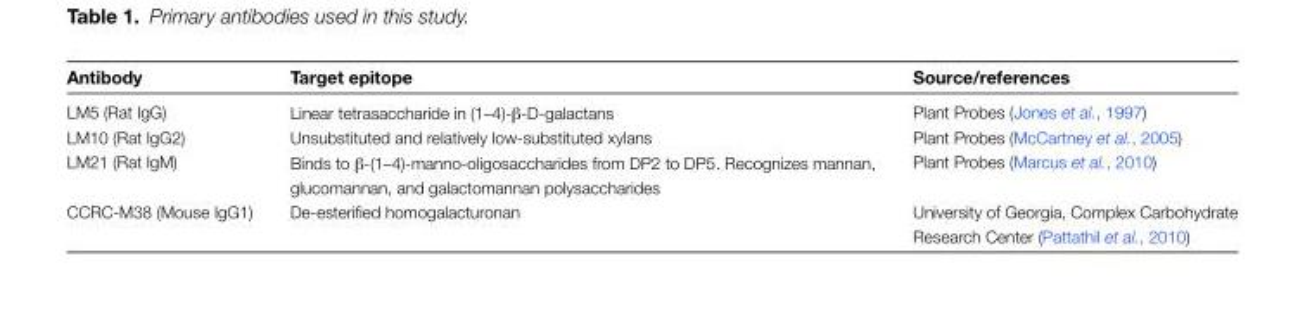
<table><thead><tr><td>Antibody</td><td>Target epitope</td><td>Source/references</td></tr></thead><tbody><tr><td>LM5 (Rat IgG)</td><td>Linear tetrasaccharide in (1–4)-β-D-galactans</td><td>Plant Probes (Jones et al., 1997)</td></tr><tr><td>LM10 (Rat IgG2)</td><td>Unsubstituted and relatively low-substituted xylans</td><td>Plant Probes (McCartney et al., 2005)</td></tr><tr><td>LM21 (Rat IgM)</td><td>Binds to β-(1–4)-manno-oligosaccharides from DP2 to DP5. Recognizes mannan, glucomannan, and galactomannan polysaccharides</td><td>Plant Probes (Marcus et al., 2010)</td></tr><tr><td>CCRC-M38 (Mouse IgG1)</td><td>De-esterified homogalacturonan</td><td>University of Georgia, Complex Carbohydrate Research Center (Pattathil et al., 2010)</td></tr></tbody></table>